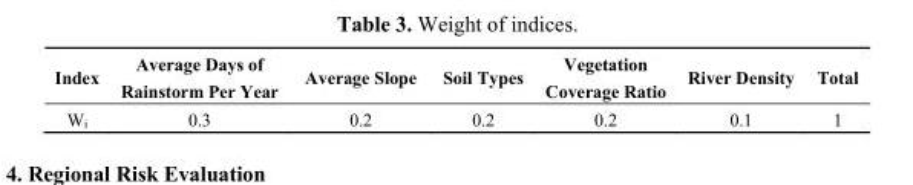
<table><thead><tr><td>Index</td><td>Average Days of Rainstorm Per Year</td><td>Average Slope</td><td>Soil Types</td><td>Vegetation Coverage Ratio</td><td>River Density</td><td>Total</td></tr></thead><tbody><tr><td>W<sub>i</sub></td><td>0.3</td><td>0.2</td><td>0.2</td><td>0.2</td><td>0.1</td><td>1</td></tr></tbody></table>